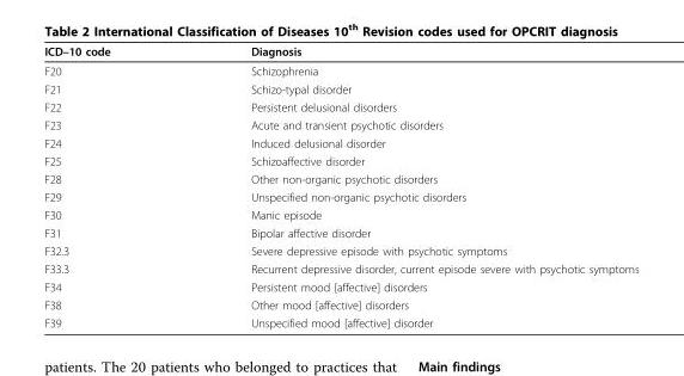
<table><thead><tr><td>ICD–10 code</td><td>Diagnosis</td></tr></thead><tbody><tr><td>F20</td><td>Schizophrenia</td></tr><tr><td>F21</td><td>Schizo-typal disorder</td></tr><tr><td>F22</td><td>Persistent delusional disorders</td></tr><tr><td>F23</td><td>Acute and transient psychotic disorders</td></tr><tr><td>F24</td><td>Induced delusional disorder</td></tr><tr><td>F25</td><td>Schizoaffective disorder</td></tr><tr><td>F28</td><td>Other non-organic psychotic disorders</td></tr><tr><td>F29</td><td>Unspecified non-organic psychotic disorders</td></tr><tr><td>F30</td><td>Manic episode</td></tr><tr><td>F31</td><td>Bipolar affective disorder</td></tr><tr><td>F32.3</td><td>Severe depressive episode with psychotic symptoms</td></tr><tr><td>F33.3</td><td>Recurrent depressive disorder, current episode severe with psychotic symptoms</td></tr><tr><td>F34</td><td>Persistent mood [affective] disorders</td></tr><tr><td>F38</td><td>Other mood [affective] disorders</td></tr><tr><td>F39</td><td>Unspecified mood [affective] disorder</td></tr></tbody></table>